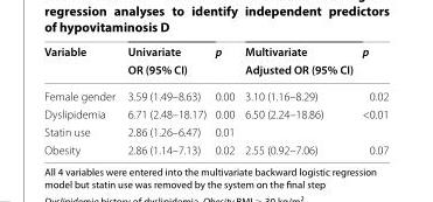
<table><thead><tr><td rowspan="2">Variable</td><td rowspan="2">Univariate OR (95% CI)</td><td rowspan="2">p</td><td rowspan="2">Multivariate Adjusted OR (95% CI)</td><td rowspan="2">p</td></tr><tr></tr></thead><tbody><tr><td>Female gender</td><td>3.59 (1.49–8.63)</td><td>0.00</td><td>3.10 (1.16–8.29)</td><td>0.02</td></tr><tr><td>Dyslipidemia</td><td>6.71 (2.48–18.17)</td><td>0.00</td><td>6.50 (2.24–18.86)</td><td>&lt;0.01</td></tr><tr><td>Statin use</td><td>2.86 (1.26–6.47)</td><td>0.01</td><td></td><td></td></tr><tr><td>Obesity</td><td>2.86 (1.14–7.13)</td><td>0.02</td><td>2.55 (0.92–7.06)</td><td>0.07</td></tr></tbody></table>